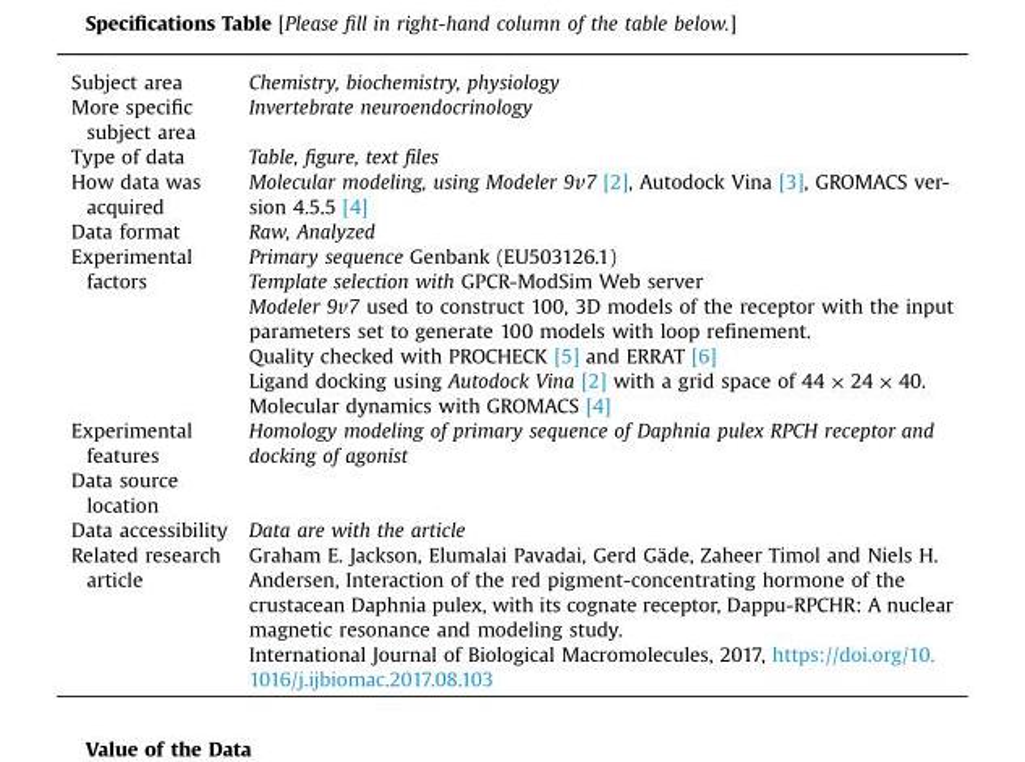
<table><tbody><tr><td>Subject area</td><td>Chemistry, biochemistry, physiology</td></tr><tr><td>More specific subject area</td><td>Invertebrate neuroendocrinology</td></tr><tr><td>Type of data</td><td>Table, figure, text files</td></tr><tr><td>How data was acquired</td><td>Molecular modeling, using Modeler 9v7 [2], Autodock Vina [3], GROMACS ver- sion 4.5.5 [4]</td></tr><tr><td>Data format</td><td>Raw, Analyzed</td></tr><tr><td rowspan="6">Experimental factors</td><td>Primary sequence Genbank (EU503126.1)</td></tr><tr><td>Template selection with GPCR-ModSim Web server</td></tr><tr><td>Modeler 9v7 used to construct 100, 3D models of the receptor with the input parameters set to generate 100 models with loop refinement.</td></tr><tr><td>Quality checked with PROCHECK [5] and ERRAT [6]</td></tr><tr><td>Ligand docking using Autodock Vina [2] with a grid space of 44 × 24 × 40.</td></tr><tr><td>Molecular dynamics with GROMACS [4]</td></tr><tr><td>Experimental features</td><td>Homology modeling of primary sequence of Daphnia pulex RPCH receptor and docking of agonist</td></tr><tr><td colspan="2">Data source location</td></tr><tr><td>Data accessibility</td><td>Data are with the article</td></tr><tr><td rowspan="2">Related research article</td><td>Graham E. Jackson, Elumalai Pavadai, Gerd Gäde, Zaheer Timol and Niels H. Andersen, Interaction of the red pigment-concentrating hormone of the crustacean Daphnia pulex, with its cognate receptor, Dappu-RPCHR: A nuclear magnetic resonance and modeling study.</td></tr><tr><td>International Journal of Biological Macromolecules, 2017, https://doi.org/10. 1016/j.ijbiomac.2017.08.103</td></tr></tbody></table>